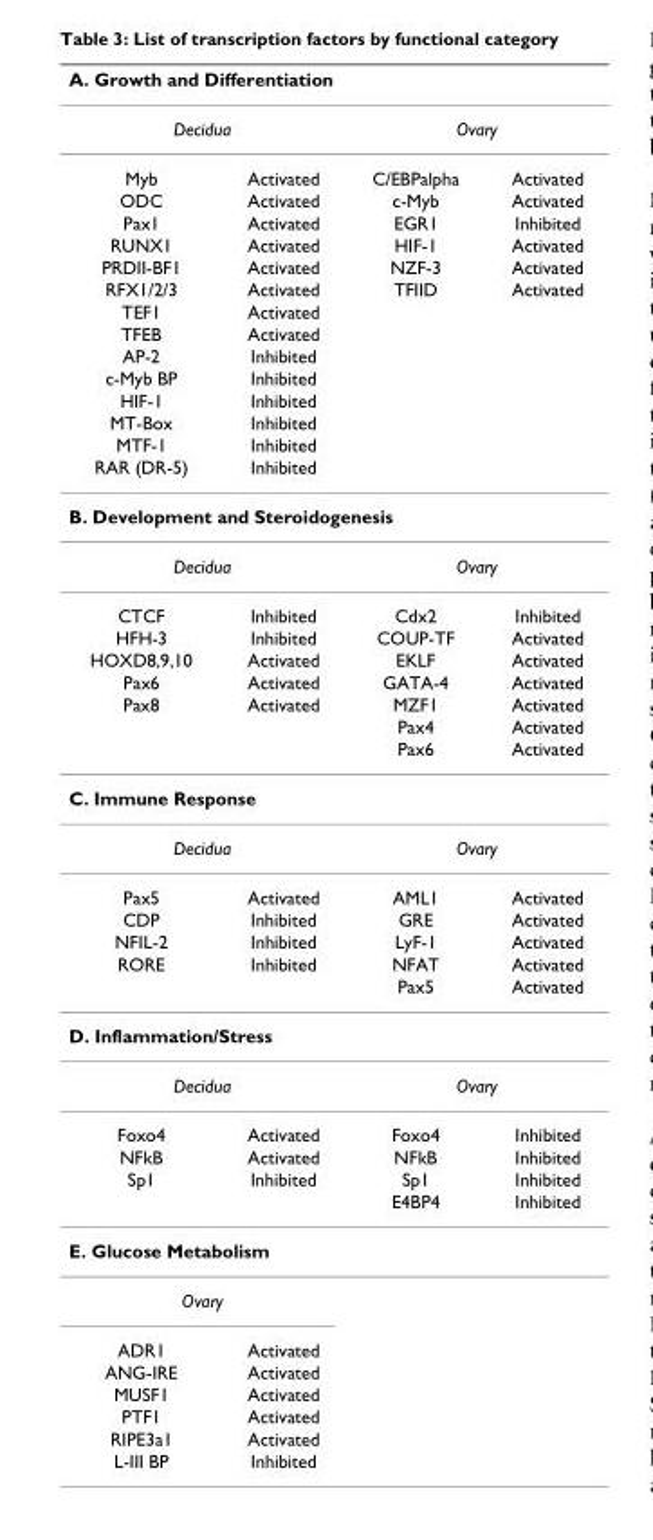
<table><thead><tr><td colspan="4">A. Growth and Differentiation</td></tr><tr><td colspan="2">Decidua</td><td colspan="2">Ovary</td></tr><tr><td>Myb</td><td>Activated</td><td>C/EBPalpha</td><td>Activated</td></tr></thead><tbody><tr><td>ODC</td><td>Activated</td><td>c-Myb</td><td>Activated</td></tr><tr><td>Pax1</td><td>Activated</td><td>EGR1</td><td>Inhibited</td></tr><tr><td>RUNX1</td><td>Activated</td><td>HIF-1</td><td>Activated</td></tr><tr><td>PRDII-BF1</td><td>Activated</td><td>NZF-3</td><td>Activated</td></tr><tr><td>RFX1/2/3</td><td>Activated</td><td>TFIID</td><td>Activated</td></tr><tr><td>TEF1</td><td>Activated</td><td></td><td></td></tr><tr><td>TFEB</td><td>Activated</td><td></td><td></td></tr><tr><td>AP-2</td><td>Inhibited</td><td></td><td></td></tr><tr><td>c-Myb BP</td><td>Inhibited</td><td></td><td></td></tr><tr><td>HIF-1</td><td>Inhibited</td><td></td><td></td></tr><tr><td>MT-Box</td><td>Inhibited</td><td></td><td></td></tr><tr><td>MTF-1</td><td>Inhibited</td><td></td><td></td></tr><tr><td>RAR (DR-5)</td><td>Inhibited</td><td></td><td></td></tr><tr><td colspan="4">B. Development and Steroidogenesis</td></tr><tr><td colspan="2">Decidua</td><td colspan="2">Ovary</td></tr><tr><td>CTCF</td><td>Inhibited</td><td>Cdx2</td><td>Inhibited</td></tr><tr><td>HFH-3</td><td>Inhibited</td><td>COUP-TF</td><td>Activated</td></tr><tr><td>HOXD8,9,10</td><td>Activated</td><td>EKLF</td><td>Activated</td></tr><tr><td>Pax6</td><td>Activated</td><td>GATA-4</td><td>Activated</td></tr><tr><td rowspan="3">Pax8</td><td>Activated</td><td>MZF1</td><td>Activated</td></tr><tr><td></td><td>Pax4</td><td>Activated</td></tr><tr><td></td><td>Pax6</td><td>Activated</td></tr><tr><td colspan="4">C. Immune Response</td></tr><tr><td colspan="2">Decidua</td><td colspan="2">Ovary</td></tr><tr><td>Pax5</td><td>Activated</td><td>AML1</td><td>Activated</td></tr><tr><td>CDP</td><td>Inhibited</td><td>GRE</td><td>Activated</td></tr><tr><td>NFIL-2</td><td>Inhibited</td><td>LyF-1</td><td>Activated</td></tr><tr><td rowspan="2">RORE</td><td>Inhibited</td><td>NFAT</td><td>Activated</td></tr><tr><td></td><td>Pax5</td><td>Activated</td></tr><tr><td colspan="4">D. Inflammation/Stress</td></tr><tr><td colspan="2">Decidua</td><td colspan="2">Ovary</td></tr><tr><td>Foxo4</td><td>Activated</td><td>Foxo4</td><td>Inhibited</td></tr><tr><td>NFkB</td><td>Activated</td><td>NFkB</td><td>Inhibited</td></tr><tr><td rowspan="2">Sp1</td><td>Inhibited</td><td>Sp1</td><td>Inhibited</td></tr><tr><td></td><td>E4BP4</td><td>Inhibited</td></tr><tr><td colspan="4">E. Glucose Metabolism</td></tr><tr><td colspan="4">Ovary</td></tr><tr><td>ADR1</td><td>Activated</td><td></td><td></td></tr><tr><td>ANG-IRE</td><td>Activated</td><td></td><td></td></tr><tr><td>MUSF1</td><td>Activated</td><td></td><td></td></tr><tr><td>PTF1</td><td>Activated</td><td></td><td></td></tr><tr><td>RIPE3a1</td><td>Activated</td><td></td><td></td></tr><tr><td>L-III BP</td><td>Inhibited</td><td></td><td></td></tr></tbody></table>